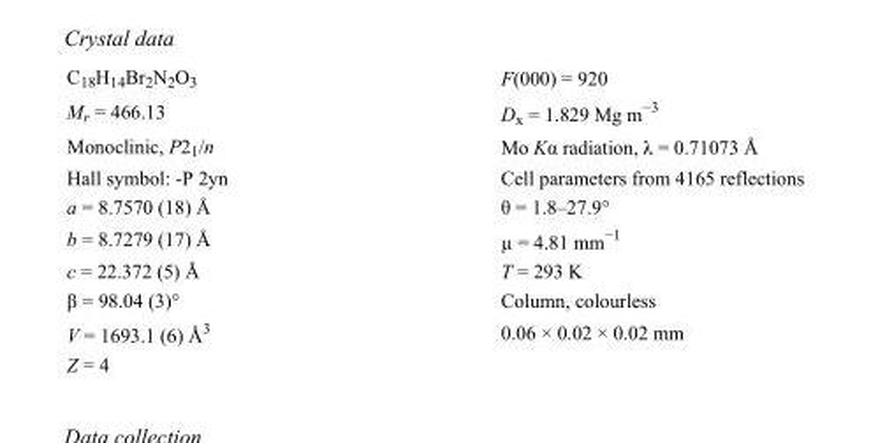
<table><tbody><tr><td>C<sub>18</sub>H<sub>14</sub>Br<sub>2</sub>N<sub>2</sub>O<sub>3</sub></td><td>F(000) = 920</td></tr><tr><td>M<sub>r</sub> = 466.13</td><td>D<sub>x</sub> = 1.829 Mg m<sup>−3</sup></td></tr><tr><td>Monoclinic, P2<sub>1</sub>/n</td><td>Mo Kα radiation, λ = 0.71073 Å</td></tr><tr><td>Hall symbol: -P 2yn</td><td>Cell parameters from 4165 reflections</td></tr><tr><td>a = 8.7570 (18) Å</td><td>θ = 1.8–27.9°</td></tr><tr><td>b = 8.7279 (17) Å</td><td>µ = 4.81 mm<sup>−1</sup></td></tr><tr><td>c = 22.372 (5) Å</td><td>T = 293 K</td></tr><tr><td>β = 98.04 (3)°</td><td>Column, colourless</td></tr><tr><td>V = 1693.1 (6) Å<sup>3</sup></td><td>0.06 × 0.02 × 0.02 mm</td></tr><tr><td>Z = 4</td><td></td></tr></tbody></table>